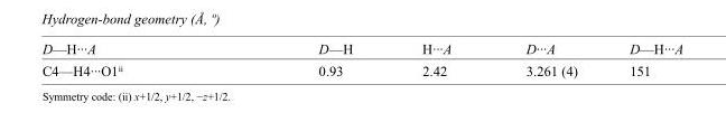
<table><tbody><tr><td>D—H···A</td><td>D—H</td><td>H···A</td><td>D···A</td><td>D—H···A</td></tr><tr><td>C4—H4···O1<sup>ii</sup></td><td>0.93</td><td>2.42</td><td>3.261 (4)</td><td>151</td></tr></tbody></table>